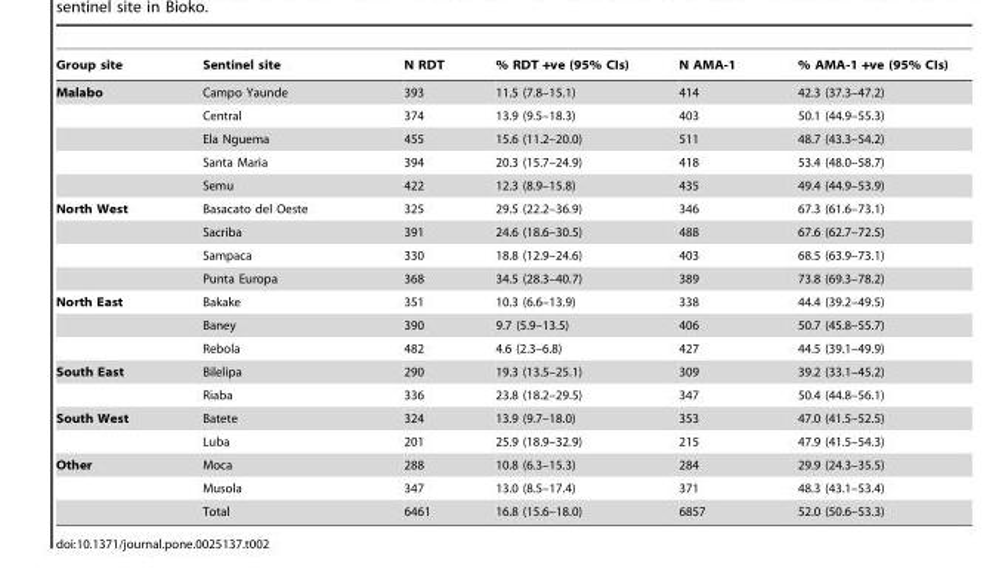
<table><thead><tr><td>Group site</td><td>Sentinel site</td><td>N RDT</td><td>% RDT +ve (95% CIs)</td><td>N AMA-1</td><td>% AMA-1 +ve (95% CIs)</td></tr></thead><tbody><tr><td rowspan="5">Malabo</td><td>Campo Yaunde</td><td>393</td><td>11.5 (7.8–15.1)</td><td>414</td><td>42.3 (37.3–47.2)</td></tr><tr><td>Central</td><td>374</td><td>13.9 (9.5–18.3)</td><td>403</td><td>50.1 (44.9–55.3)</td></tr><tr><td>Ela Nguema</td><td>455</td><td>15.6 (11.2–20.0)</td><td>511</td><td>48.7 (43.3–54.2)</td></tr><tr><td>Santa Maria</td><td>394</td><td>20.3 (15.7–24.9)</td><td>418</td><td>53.4 (48.0–58.7)</td></tr><tr><td>Semu</td><td>422</td><td>12.3 (8.9–15.8)</td><td>435</td><td>49.4 (44.9–53.9)</td></tr><tr><td rowspan="4">North West</td><td>Basacato del Oeste</td><td>325</td><td>29.5 (22.2–36.9)</td><td>346</td><td>67.3 (61.6–73.1)</td></tr><tr><td>Sacriba</td><td>391</td><td>24.6 (18.6–30.5)</td><td>488</td><td>67.6 (62.7–72.5)</td></tr><tr><td>Sampaca</td><td>330</td><td>18.8 (12.9–24.6)</td><td>403</td><td>68.5 (63.9–73.1)</td></tr><tr><td>Punta Europa</td><td>368</td><td>34.5 (28.3–40.7)</td><td>389</td><td>73.8 (69.3–78.2)</td></tr><tr><td rowspan="3">North East</td><td>Bakake</td><td>351</td><td>10.3 (6.6–13.9)</td><td>338</td><td>44.4 (39.2–49.5)</td></tr><tr><td>Baney</td><td>390</td><td>9.7 (5.9–13.5)</td><td>406</td><td>50.7 (45.8–55.7)</td></tr><tr><td>Rebola</td><td>482</td><td>4.6 (2.3–6.8)</td><td>427</td><td>44.5 (39.1–49.9)</td></tr><tr><td rowspan="2">South East</td><td>Bilelipa</td><td>290</td><td>19.3 (13.5–25.1)</td><td>309</td><td>39.2 (33.1–45.2)</td></tr><tr><td>Riaba</td><td>336</td><td>23.8 (18.2–29.5)</td><td>347</td><td>50.4 (44.8–56.1)</td></tr><tr><td rowspan="2">South West</td><td>Batete</td><td>324</td><td>13.9 (9.7–18.0)</td><td>353</td><td>47.0 (41.5–52.5)</td></tr><tr><td>Luba</td><td>201</td><td>25.9 (18.9–32.9)</td><td>215</td><td>47.9 (41.5–54.3)</td></tr><tr><td rowspan="3">Other</td><td>Moca</td><td>288</td><td>10.8 (6.3–15.3)</td><td>284</td><td>29.9 (24.3–35.5)</td></tr><tr><td>Musola</td><td>347</td><td>13.0 (8.5–17.4)</td><td>371</td><td>48.3 (43.1–53.4)</td></tr><tr><td>Total</td><td>6461</td><td>16.8 (15.6–18.0)</td><td>6857</td><td>52.0 (50.6–53.3)</td></tr></tbody></table>